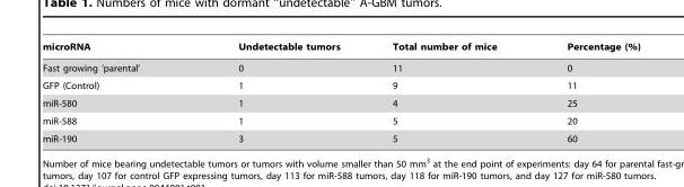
<table><thead><tr><td>microRNA</td><td>Undetectable tumors</td><td>Total number of mice</td><td>Percentage (%)</td></tr></thead><tbody><tr><td>Fast growing ‘parental’</td><td>0</td><td>11</td><td>0</td></tr><tr><td>GFP (Control)</td><td>1</td><td>9</td><td>11</td></tr><tr><td>miR-580</td><td>1</td><td>4</td><td>25</td></tr><tr><td>miR-588</td><td>1</td><td>5</td><td>20</td></tr><tr><td>miR-190</td><td>3</td><td>5</td><td>60</td></tr></tbody></table>